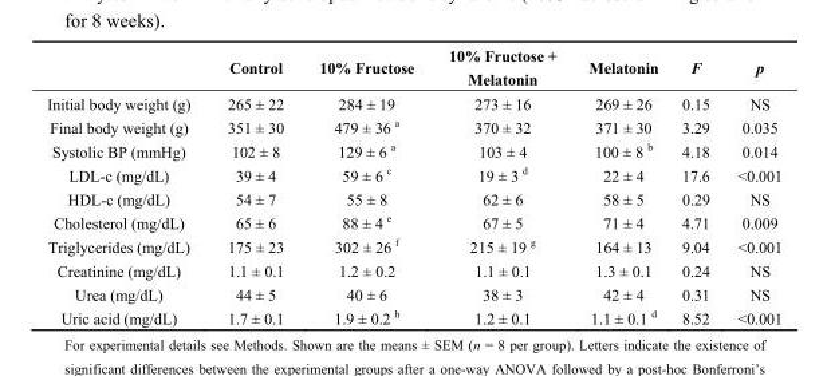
<table><thead><tr><td></td><td>Control</td><td>10% Fructose</td><td>10% Fructose + Melatonin</td><td>Melatonin</td><td>F</td><td>p</td></tr></thead><tbody><tr><td>Initial body weight (g)</td><td>265 ± 22</td><td>284 ± 19</td><td>273 ± 16</td><td>269 ± 26</td><td>0.15</td><td>NS</td></tr><tr><td>Final body weight (g)</td><td>351 ± 30</td><td>479 ± 36 a</td><td>370 ± 32</td><td>371 ± 30</td><td>3.29</td><td>0.035</td></tr><tr><td>Systolic BP (mmHg)</td><td>102 ± 8</td><td>129 ± 6 a</td><td>103 ± 4</td><td>100 ± 8 b</td><td>4.18</td><td>0.014</td></tr><tr><td>LDL-c (mg/dL)</td><td>39 ± 4</td><td>59 ± 6 c</td><td>19 ± 3 d</td><td>22 ± 4</td><td>17.6</td><td>&lt;0.001</td></tr><tr><td>HDL-c (mg/dL)</td><td>54 ± 7</td><td>55 ± 8</td><td>62 ± 6</td><td>58 ± 5</td><td>0.29</td><td>NS</td></tr><tr><td>Cholesterol (mg/dL)</td><td>65 ± 6</td><td>88 ± 4 e</td><td>67 ± 5</td><td>71 ± 4</td><td>4.71</td><td>0.009</td></tr><tr><td>Triglycerides (mg/dL)</td><td>175 ± 23</td><td>302 ± 26 f</td><td>215 ± 19 g</td><td>164 ± 13</td><td>9.04</td><td>&lt;0.001</td></tr><tr><td>Creatinine (mg/dL)</td><td>1.1 ± 0.1</td><td>1.2 ± 0.2</td><td>1.1 ± 0.1</td><td>1.3 ± 0.1</td><td>0.24</td><td>NS</td></tr><tr><td>Urea (mg/dL)</td><td>44 ± 5</td><td>40 ± 6</td><td>38 ± 3</td><td>42 ± 4</td><td>0.31</td><td>NS</td></tr><tr><td>Uric acid (mg/dL)</td><td>1.7 ± 0.1</td><td>1.9 ± 0.2 h</td><td>1.2 ± 0.1</td><td>1.1 ± 0.1 d</td><td>8.52</td><td>&lt;0.001</td></tr></tbody></table>